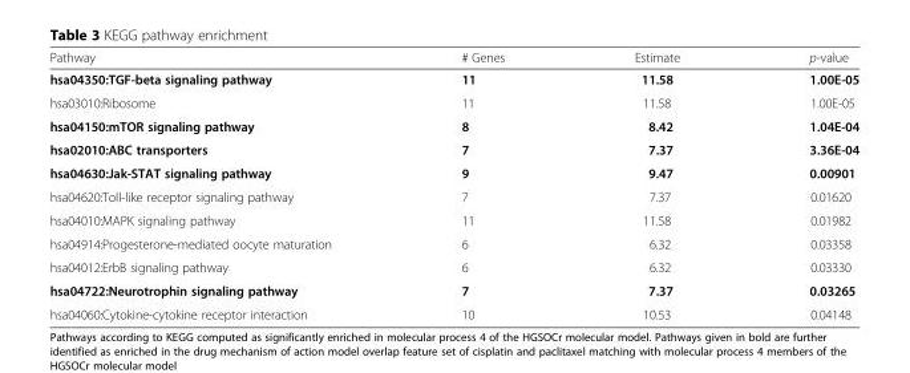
<table><thead><tr><td>Pathway</td><td># Genes</td><td>Estimate</td><td>p-value</td></tr></thead><tbody><tr><td>hsa04350:TGF-beta signaling pathway</td><td>11</td><td>11.58</td><td>1.00E-05</td></tr><tr><td>hsa03010:Ribosome</td><td>11</td><td>11.58</td><td>1.00E-05</td></tr><tr><td>hsa04150:mTOR signaling pathway</td><td>8</td><td>8.42</td><td>1.04E-04</td></tr><tr><td>hsa02010:ABC transporters</td><td>7</td><td>7.37</td><td>3.36E-04</td></tr><tr><td>hsa04630:Jak-STAT signaling pathway</td><td>9</td><td>9.47</td><td>0.00901</td></tr><tr><td>hsa04620:Toll-like receptor signaling pathway</td><td>7</td><td>7.37</td><td>0.01620</td></tr><tr><td>hsa04010:MAPK signaling pathway</td><td>11</td><td>11.58</td><td>0.01982</td></tr><tr><td>hsa04914:Progesterone-mediated oocyte maturation</td><td>6</td><td>6.32</td><td>0.03358</td></tr><tr><td>hsa04012:ErbB signaling pathway</td><td>6</td><td>6.32</td><td>0.03330</td></tr><tr><td>hsa04722:Neurotrophin signaling pathway</td><td>7</td><td>7.37</td><td>0.03265</td></tr><tr><td>hsa04060:Cytokine-cytokine receptor interaction</td><td>10</td><td>10.53</td><td>0.04148</td></tr></tbody></table>